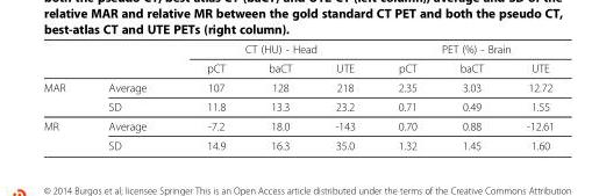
<table><thead><tr><td rowspan="2"></td><td rowspan="2"></td><td colspan="3">CT (HU) - Head</td><td colspan="3">PET (%) - Brain</td></tr><tr><td>pCT</td><td>baCT</td><td>UTE</td><td>pCT</td><td>baCT</td><td>UTE</td></tr></thead><tbody><tr><td rowspan="2">MAR</td><td>Average</td><td>107</td><td>128</td><td>218</td><td>2.35</td><td>3.03</td><td>12.72</td></tr><tr><td>SD</td><td>11.8</td><td>13.3</td><td>23.2</td><td>0.71</td><td>0.49</td><td>1.55</td></tr><tr><td rowspan="2">MR</td><td>Average</td><td>-7.2</td><td>18.0</td><td>-143</td><td>0.70</td><td>0.88</td><td>-12.61</td></tr><tr><td>SD</td><td>14.9</td><td>16.3</td><td>35.0</td><td>1.32</td><td>1.45</td><td>1.60</td></tr></tbody></table>